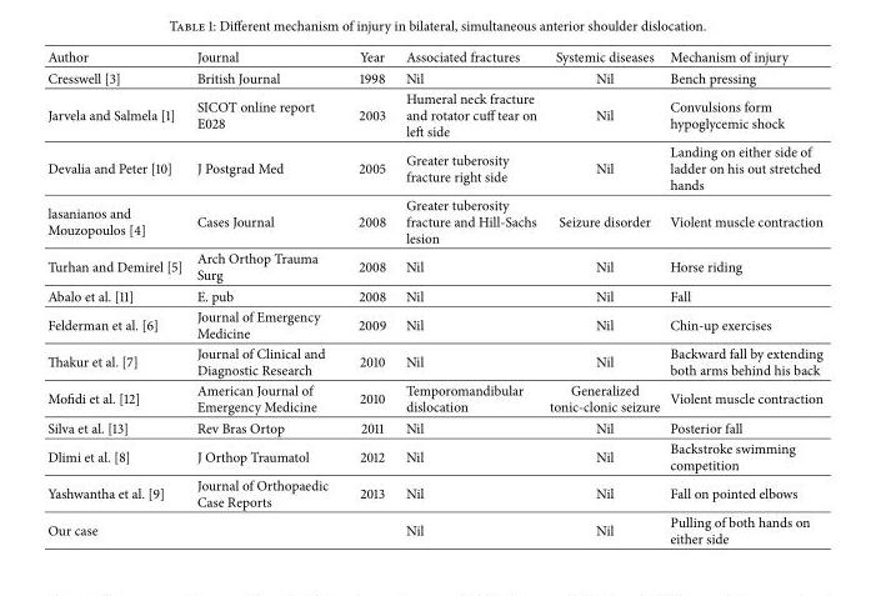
<table><thead><tr><td>Author</td><td>Journal</td><td>Year</td><td>Associated fractures</td><td>Systemic diseases</td><td>Mechanism of injury</td></tr></thead><tbody><tr><td>Cresswell [3]</td><td>British Journal</td><td>1998</td><td>Nil</td><td>Nil</td><td>Bench pressing</td></tr><tr><td>Jarvela and Salmela [1]</td><td>SICOT online report E028</td><td>2003</td><td>Humeral neck fracture and rotator cuff tear on left side</td><td>Nil</td><td>Convulsions form hypoglycemic shock</td></tr><tr><td>Devalia and Peter [10]</td><td>J Postgrad Med</td><td>2005</td><td>Greater tuberosity fracture right side</td><td>Nil</td><td>Landing on either side of ladder on his out stretched hands</td></tr><tr><td>lasanianos and Mouzopoulos [4]</td><td>Cases Journal</td><td>2008</td><td>Greater tuberosity fracture and Hill-Sachs lesion</td><td>Seizure disorder</td><td>Violent muscle contraction</td></tr><tr><td>Turhan and Demirel [5]</td><td>Arch Orthop Trauma Surg</td><td>2008</td><td>Nil</td><td>Nil</td><td>Horse riding</td></tr><tr><td>Abalo et al. [11]</td><td>E. pub</td><td>2008</td><td>Nil</td><td>Nil</td><td>Fall</td></tr><tr><td>Felderman et al. [6]</td><td>Journal of Emergency Medicine</td><td>2009</td><td>Nil</td><td>Nil</td><td>Chin-up exercises</td></tr><tr><td>Thakur et al. [7]</td><td>Journal of Clinical and Diagnostic Research</td><td>2010</td><td>Nil</td><td>Nil</td><td>Backward fall by extending both arms behind his back</td></tr><tr><td>Mofidi et al. [12]</td><td>American Journal of Emergency Medicine</td><td>2010</td><td>Temporomandibular dislocation</td><td>Generalized tonic-clonic seizure</td><td>Violent muscle contraction</td></tr><tr><td>Silva et al. [13]</td><td>Rev Bras Ortop</td><td>2011</td><td>Nil</td><td>Nil</td><td>Posterior fall</td></tr><tr><td>Dlimi et al. [8]</td><td>J Orthop Traumatol</td><td>2012</td><td>Nil</td><td>Nil</td><td>Backstroke swimming competition</td></tr><tr><td>Yashwantha et al. [9]</td><td>Journal of Orthopaedic Case Reports</td><td>2013</td><td>Nil</td><td>Nil</td><td>Fall on pointed elbows</td></tr><tr><td>Our case</td><td></td><td></td><td>Nil</td><td>Nil</td><td>Pulling of both hands on either side</td></tr></tbody></table>